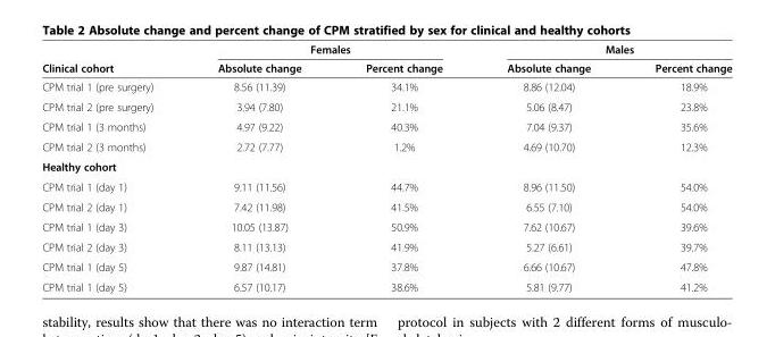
<table><thead><tr><td rowspan="2">Clinical cohort</td><td colspan="2">Females</td><td colspan="2">Males</td></tr><tr><td>Absolute change</td><td>Percent change</td><td>Absolute change</td><td>Percent change</td></tr></thead><tbody><tr><td>CPM trial 1 (pre surgery)</td><td>8.56 (11.39)</td><td>34.1%</td><td>8.86 (12.04)</td><td>18.9%</td></tr><tr><td>CPM trial 2 (pre surgery)</td><td>3.94 (7.80)</td><td>21.1%</td><td>5.06 (8.47)</td><td>23.8%</td></tr><tr><td>CPM trial 1 (3 months)</td><td>4.97 (9.22)</td><td>40.3%</td><td>7.04 (9.37)</td><td>35.6%</td></tr><tr><td>CPM trial 2 (3 months)</td><td>2.72 (7.77)</td><td>1.2%</td><td>4.69 (10.70)</td><td>12.3%</td></tr><tr><td colspan="5">Healthy cohort</td></tr><tr><td>CPM trial 1 (day 1)</td><td>9.11 (11.56)</td><td>44.7%</td><td>8.96 (11.50)</td><td>54.0%</td></tr><tr><td>CPM trial 2 (day 1)</td><td>7.42 (11.98)</td><td>41.5%</td><td>6.55 (7.10)</td><td>54.0%</td></tr><tr><td>CPM trial 1 (day 3)</td><td>10.05 (13.87)</td><td>50.9%</td><td>7.62 (10.67)</td><td>39.6%</td></tr><tr><td>CPM trial 2 (day 3)</td><td>8.11 (13.13)</td><td>41.9%</td><td>5.27 (6.61)</td><td>39.7%</td></tr><tr><td>CPM trial 1 (day 5)</td><td>9.87 (14.81)</td><td>37.8%</td><td>6.66 (10.67)</td><td>47.8%</td></tr><tr><td>CPM trial 1 (day 5)</td><td>6.57 (10.17)</td><td>38.6%</td><td>5.81 (9.77)</td><td>41.2%</td></tr></tbody></table>